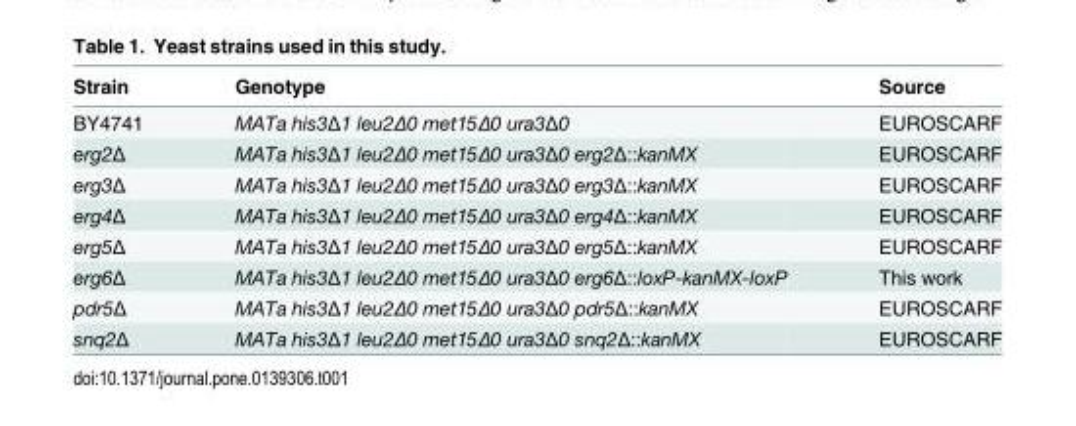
<table><thead><tr><td>Strain</td><td>Genotype</td><td>Source</td></tr></thead><tbody><tr><td>BY4741</td><td>MATa his3Δ1 leu2Δ0 met15Δ0 ura3Δ0</td><td>EUROSCARF</td></tr><tr><td>erg2Δ</td><td>MATa his3Δ1 leu2Δ0 met15Δ0 ura3Δ0 erg2Δ::kanMX</td><td>EUROSCARF</td></tr><tr><td>erg3Δ</td><td>MATa his3Δ1 leu2Δ0 met15Δ0 ura3Δ0 erg3Δ::kanMX</td><td>EUROSCARF</td></tr><tr><td>erg4Δ</td><td>MATa his3Δ1 leu2Δ0 met15Δ0 ura3Δ0 erg4Δ::kanMX</td><td>EUROSCARF</td></tr><tr><td>erg5Δ</td><td>MATa his3Δ1 leu2Δ0 met15Δ0 ura3Δ0 erg5Δ::kanMX</td><td>EUROSCARF</td></tr><tr><td>erg6Δ</td><td>MATa his3Δ1 leu2Δ0 met15Δ0 ura3Δ0 erg6Δ::loxP-kanMX-loxP</td><td>This work</td></tr><tr><td>pdr5Δ</td><td>MATa his3Δ1 leu2Δ0 met15Δ0 ura3Δ0 pdr5Δ::kanMX</td><td>EUROSCARF</td></tr><tr><td>snq2Δ</td><td>MATa his3Δ1 leu2Δ0 met15Δ0 ura3Δ0 snq2Δ::kanMX</td><td>EUROSCARF</td></tr></tbody></table>